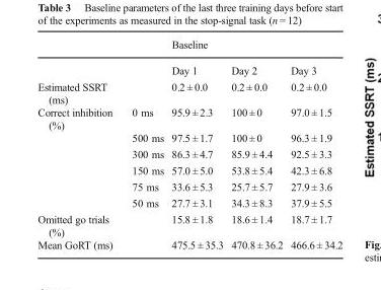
<table><thead><tr><td rowspan="2"></td><td rowspan="2"></td><td colspan="3">Baseline</td></tr><tr><td>Day 1</td><td>Day 2</td><td>Day 3</td></tr></thead><tbody><tr><td>Estimated SSRT (ms)</td><td></td><td>0.2 ± 0.0</td><td>0.2 ± 0.0</td><td>0.2 ± 0.0</td></tr><tr><td rowspan="6">Correct inhibition (%)</td><td>0 ms</td><td>95.9 ± 2.3</td><td>100 ± 0</td><td>97.0 ± 1.5</td></tr><tr><td>500 ms</td><td>97.5 ± 1.7</td><td>100 ± 0</td><td>96.3 ± 1.9</td></tr><tr><td>300 ms</td><td>86.3 ± 4.7</td><td>85.9 ± 4.4</td><td>92.5 ± 3.3</td></tr><tr><td>150 ms</td><td>57.0 ± 5.0</td><td>53.8 ± 5.4</td><td>42.3 ± 6.8</td></tr><tr><td>75 ms</td><td>33.6 ± 5.3</td><td>25.7 ± 5.7</td><td>27.9 ± 3.6</td></tr><tr><td>50 ms</td><td>27.7 ± 3.1</td><td>34.3 ± 8.3</td><td>37.9 ± 5.5</td></tr><tr><td>Omitted go trials (%)</td><td></td><td>15.8 ± 1.8</td><td>18.6 ± 1.4</td><td>18.7 ± 1.7</td></tr><tr><td>Mean GoRT (ms)</td><td></td><td>475.5 ± 35.3</td><td>470.8 ± 36.2</td><td>466.6 ± 34.2</td></tr></tbody></table>